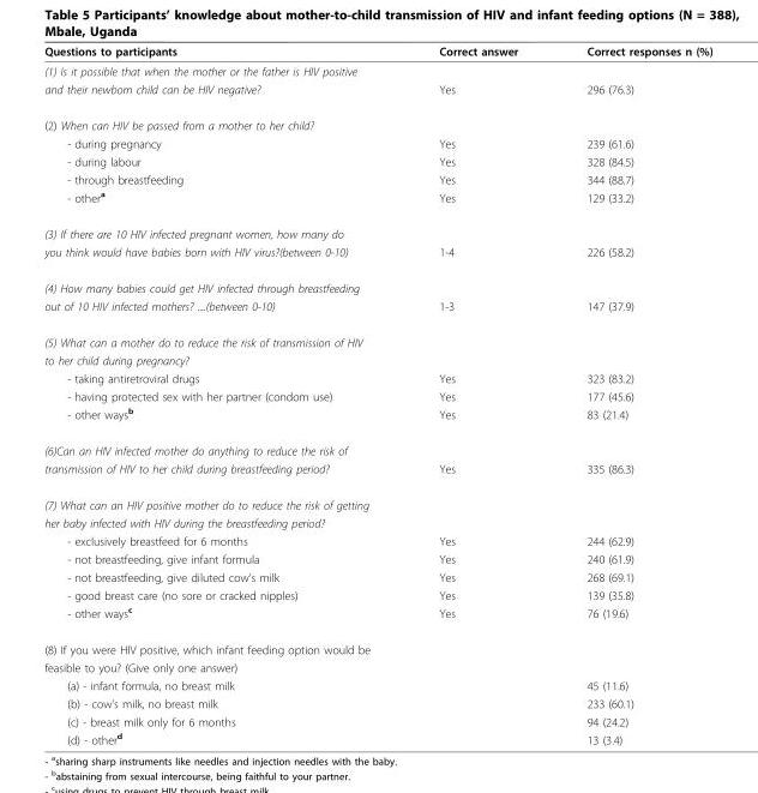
<table><thead><tr><td>Questions to participants</td><td>Correct answer</td><td>Correct responses n (%)</td></tr></thead><tbody><tr><td colspan="3">(1) Is it possible that when the mother or the father is HIV positive</td></tr><tr><td>and their newborn child can be HIV negative?</td><td>Yes</td><td>296 (76.3)</td></tr><tr><td colspan="3">(2) When can HIV be passed from a mother to her child?</td></tr><tr><td>- during pregnancy</td><td>Yes</td><td>239 (61.6)</td></tr><tr><td>- during labour</td><td>Yes</td><td>328 (84.5)</td></tr><tr><td>- through breastfeeding</td><td>Yes</td><td>344 (88.7)</td></tr><tr><td>- other<sup>a</sup></td><td>Yes</td><td>129 (33.2)</td></tr><tr><td colspan="3">(3) If there are 10 HIV infected pregnant women, how many do</td></tr><tr><td>you think would have babies born with HIV virus?(between 0-10)</td><td>1-4</td><td>226 (58.2)</td></tr><tr><td colspan="3">(4) How many babies could get HIV infected through breastfeeding</td></tr><tr><td>out of 10 HIV infected mothers? ....(between 0-10)</td><td>1-3</td><td>147 (37.9)</td></tr><tr><td colspan="3">(5) What can a mother do to reduce the risk of transmission of HIV</td></tr><tr><td colspan="3">to her child during pregnancy?</td></tr><tr><td>- taking antiretroviral drugs</td><td>Yes</td><td>323 (83.2)</td></tr><tr><td>- having protected sex with her partner (condom use)</td><td>Yes</td><td>177 (45.6)</td></tr><tr><td>- other ways<sup>b</sup></td><td>Yes</td><td>83 (21.4)</td></tr><tr><td colspan="3">(6)Can an HIV infected mother do anything to reduce the risk of</td></tr><tr><td>transmission of HIV to her child during breastfeeding period?</td><td>Yes</td><td>335 (86.3)</td></tr><tr><td colspan="3">(7) What can an HIV positive mother do to reduce the risk of getting</td></tr><tr><td colspan="3">her baby infected with HIV during the breastfeeding period?</td></tr><tr><td>- exclusively breastfeed for 6 months</td><td>Yes</td><td>244 (62.9)</td></tr><tr><td>- not breastfeeding, give infant formula</td><td>Yes</td><td>240 (61.9)</td></tr><tr><td>- not breastfeeding, give diluted cow’s milk</td><td>Yes</td><td>268 (69.1)</td></tr><tr><td>- good breast care (no sore or cracked nipples)</td><td>Yes</td><td>139 (35.8)</td></tr><tr><td>- other ways<sup>c</sup></td><td>Yes</td><td>76 (19.6)</td></tr><tr><td colspan="3">(8) If you were HIV positive, which infant feeding option would be</td></tr><tr><td colspan="3">feasible to you? (Give only one answer)</td></tr><tr><td>(a) - infant formula, no breast milk</td><td></td><td>45 (11.6)</td></tr><tr><td>(b) - cow’s milk, no breast milk</td><td></td><td>233 (60.1)</td></tr><tr><td>(c) - breast milk only for 6 months</td><td></td><td>94 (24.2)</td></tr><tr><td>(d) - other<sup>d</sup></td><td></td><td>13 (3.4)</td></tr></tbody></table>